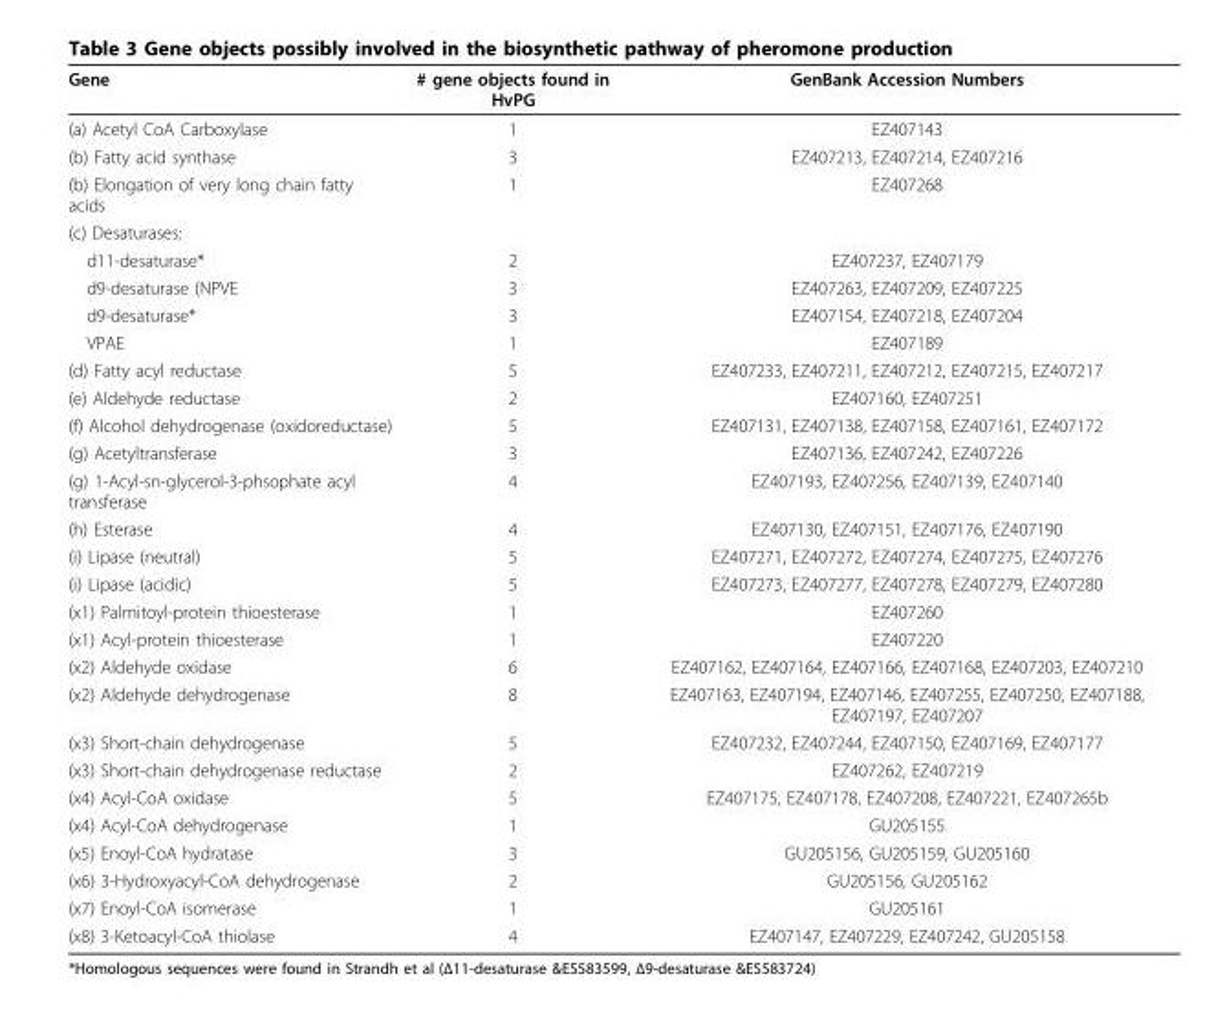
<table><thead><tr><td>Gene</td><td># gene objects found in HvPG</td><td>GenBank Accession Numbers</td></tr></thead><tbody><tr><td>(a) Acetyl CoA Carboxylase</td><td>1</td><td>EZ407143</td></tr><tr><td>(b) Fatty acid synthase</td><td>3</td><td>EZ407213, EZ407214, EZ407216</td></tr><tr><td>(b) Elongation of very long chain fatty acids</td><td>1</td><td>EZ407268</td></tr><tr><td colspan="3">(c) Desaturases:</td></tr><tr><td>d11-desaturase*</td><td>2</td><td>EZ407237, EZ407179</td></tr><tr><td>d9-desaturase (NPVE</td><td>3</td><td>EZ407263, EZ407209, EZ407225</td></tr><tr><td>d9-desaturase*</td><td>3</td><td>EZ407154, EZ407218, EZ407204</td></tr><tr><td>VPAE</td><td>1</td><td>EZ407189</td></tr><tr><td>(d) Fatty acyl reductase</td><td>5</td><td>EZ407233, EZ407211, EZ407212, EZ407215, EZ407217</td></tr><tr><td>(e) Aldehyde reductase</td><td>2</td><td>EZ407160, EZ407251</td></tr><tr><td>(f) Alcohol dehydrogenase (oxidoreductase)</td><td>5</td><td>EZ407131, EZ407138, EZ407158, EZ407161, EZ407172</td></tr><tr><td>(g) Acetyltransferase</td><td>3</td><td>EZ407136, EZ407242, EZ407226</td></tr><tr><td>(g) 1-Acyl-sn-glycerol-3-phsophate acyl transferase</td><td>4</td><td>EZ407193, EZ407256, EZ407139, EZ407140</td></tr><tr><td>(h) Esterase</td><td>4</td><td>EZ407130, EZ407151, EZ407176, EZ407190</td></tr><tr><td>(i) Lipase (neutral)</td><td>5</td><td>EZ407271, EZ407272, EZ407274, EZ407275, EZ407276</td></tr><tr><td>(i) Lipase (acidic)</td><td>5</td><td>EZ407273, EZ407277, EZ407278, EZ407279, EZ407280</td></tr><tr><td>(x1) Palmitoyl-protein thioesterase</td><td>1</td><td>EZ407260</td></tr><tr><td>(x1) Acyl-protein thioesterase</td><td>1</td><td>EZ407220</td></tr><tr><td>(x2) Aldehyde oxidase</td><td>6</td><td>EZ407162, EZ407164, EZ407166, EZ407168, EZ407203, EZ407210</td></tr><tr><td>(x2) Aldehyde dehydrogenase</td><td>8</td><td>EZ407163, EZ407194, EZ407146, EZ407255, EZ407250, EZ407188, EZ407197, EZ407207</td></tr><tr><td>(x3) Short-chain dehydrogenase</td><td>5</td><td>EZ407232, EZ407244, EZ407150, EZ407169, EZ407177</td></tr><tr><td>(x3) Short-chain dehydrogenase reductase</td><td>2</td><td>EZ407262, EZ407219</td></tr><tr><td>(x4) Acyl-CoA oxidase</td><td>5</td><td>EZ407175, EZ407178, EZ407208, EZ407221, EZ407265b</td></tr><tr><td>(x4) Acyl-CoA dehydrogenase</td><td>1</td><td>GU205155</td></tr><tr><td>(x5) Enoyl-CoA hydratase</td><td>3</td><td>GU205156, GU205159, GU205160</td></tr><tr><td>(x6) 3-Hydroxyacyl-CoA dehydrogenase</td><td>2</td><td>GU205156, GU205162</td></tr><tr><td>(x7) Enoyl-CoA isomerase</td><td>1</td><td>GU205161</td></tr><tr><td>(x8) 3-Ketoacyl-CoA thiolase</td><td>4</td><td>EZ407147, EZ407229, EZ407242, GU205158</td></tr></tbody></table>